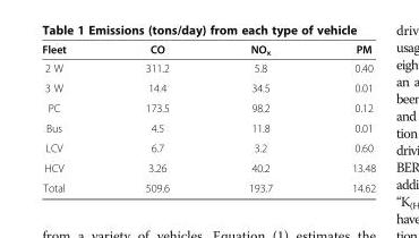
<table><thead><tr><td>Fleet</td><td>CO</td><td>NO<sub>x</sub></td><td>PM</td></tr></thead><tbody><tr><td>2 W</td><td>311.2</td><td>5.8</td><td>0.40</td></tr><tr><td>3 W</td><td>14.4</td><td>34.5</td><td>0.01</td></tr><tr><td>PC</td><td>173.5</td><td>98.2</td><td>0.12</td></tr><tr><td>Bus</td><td>4.5</td><td>11.8</td><td>0.01</td></tr><tr><td>LCV</td><td>6.7</td><td>3.2</td><td>0.60</td></tr><tr><td>HCV</td><td>3.26</td><td>40.2</td><td>13.48</td></tr><tr><td>Total</td><td>509.6</td><td>193.7</td><td>14.62</td></tr></tbody></table>